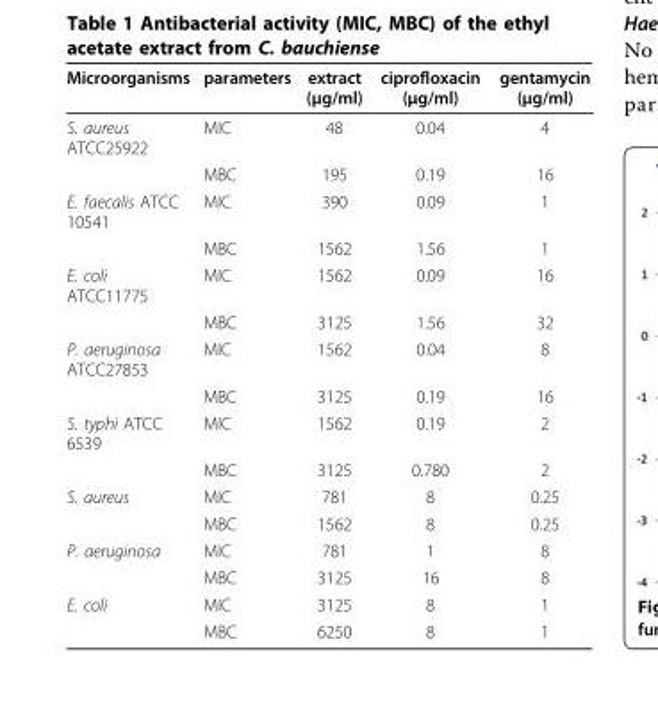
<table><thead><tr><td>Microorganisms</td><td>parameters</td><td>extract (μg/ml)</td><td>ciprofloxacin (μg/ml)</td><td>gentamycin (μg/ml)</td></tr></thead><tbody><tr><td rowspan="2">S. aureus ATCC25922</td><td>MIC</td><td>48</td><td>0.04</td><td>4</td></tr><tr><td>MBC</td><td>195</td><td>0.19</td><td>16</td></tr><tr><td rowspan="2">E. faecalis ATCC 10541</td><td>MIC</td><td>390</td><td>0.09</td><td>1</td></tr><tr><td>MBC</td><td>1562</td><td>1.56</td><td>1</td></tr><tr><td rowspan="2">E. coli ATCC11775</td><td>MIC</td><td>1562</td><td>0.09</td><td>16</td></tr><tr><td>MBC</td><td>3125</td><td>1.56</td><td>32</td></tr><tr><td rowspan="2">P. aeruginosa ATCC27853</td><td>MIC</td><td>1562</td><td>0.04</td><td>8</td></tr><tr><td>MBC</td><td>3125</td><td>0.19</td><td>16</td></tr><tr><td rowspan="2">S. typhi ATCC 6539</td><td>MIC</td><td>1562</td><td>0.19</td><td>2</td></tr><tr><td>MBC</td><td>3125</td><td>0.780</td><td>2</td></tr><tr><td rowspan="2">S. aureus</td><td>MIC</td><td>781</td><td>8</td><td>0.25</td></tr><tr><td>MBC</td><td>1562</td><td>8</td><td>0.25</td></tr><tr><td rowspan="2">P. aeruginosa</td><td>MIC</td><td>781</td><td>1</td><td>8</td></tr><tr><td>MBC</td><td>3125</td><td>16</td><td>8</td></tr><tr><td rowspan="2">E. coli</td><td>MIC</td><td>3125</td><td>8</td><td>1</td></tr><tr><td>MBC</td><td>6250</td><td>8</td><td>1</td></tr></tbody></table>